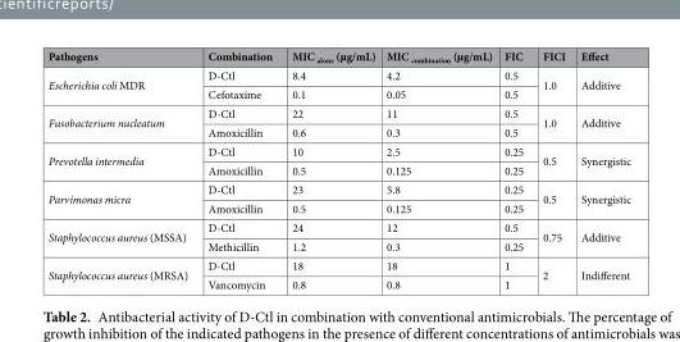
<table><thead><tr><td>Pathogens</td><td>Combination</td><td>MIC <sub>alone</sub> (µg/mL)</td><td>MIC <sub>combination</sub> (µg/mL)</td><td>FIC</td><td>FICI</td><td>Effect</td></tr></thead><tbody><tr><td rowspan="2">Escherichia coli MDR</td><td>D-Ctl</td><td>8.4</td><td>4.2</td><td>0.5</td><td rowspan="2">1.0</td><td rowspan="2">Additive</td></tr><tr><td>Cefotaxime</td><td>0.1</td><td>0.05</td><td>0.5</td></tr><tr><td rowspan="2">Fusobacterium nucleatum</td><td>D-Ctl</td><td>22</td><td>11</td><td>0.5</td><td rowspan="2">1.0</td><td rowspan="2">Additive</td></tr><tr><td>Amoxicillin</td><td>0.6</td><td>0.3</td><td>0.5</td></tr><tr><td rowspan="2">Prevotella intermedia</td><td>D-Ctl</td><td>10</td><td>2.5</td><td>0.25</td><td rowspan="2">0.5</td><td rowspan="2">Synergistic</td></tr><tr><td>Amoxicillin</td><td>0.5</td><td>0.125</td><td>0.25</td></tr><tr><td rowspan="2">Parvimonas micra</td><td>D-Ctl</td><td>23</td><td>5.8</td><td>0.25</td><td rowspan="2">0.5</td><td rowspan="2">Synergistic</td></tr><tr><td>Amoxicillin</td><td>0.5</td><td>0.125</td><td>0.25</td></tr><tr><td rowspan="2">Staphylococcus aureus (MSSA)</td><td>D-Ctl</td><td>24</td><td>12</td><td>0.5</td><td rowspan="2">0.75</td><td rowspan="2">Additive</td></tr><tr><td>Methicillin</td><td>1.2</td><td>0.3</td><td>0.25</td></tr><tr><td rowspan="2">Staphylococcus aureus (MRSA)</td><td>D-Ctl</td><td>18</td><td>18</td><td>1</td><td rowspan="2">2</td><td rowspan="2">Indifferent</td></tr><tr><td>Vancomycin</td><td>0.8</td><td>0.8</td><td>1</td></tr></tbody></table>